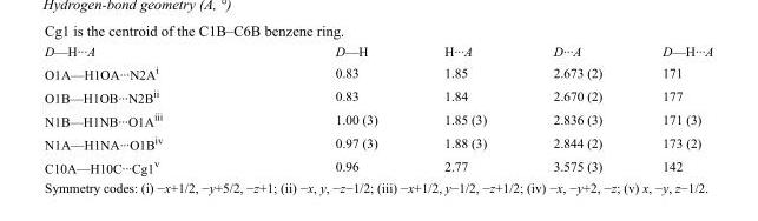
<table><tbody><tr><td>D—H···A</td><td>D—H</td><td>H···A</td><td>D···A</td><td>D—H···A</td></tr><tr><td>O1A—H1OA···N2A<sup>i</sup></td><td>0.83</td><td>1.85</td><td>2.673 (2)</td><td>171</td></tr><tr><td>O1B—H1OB···N2B<sup>ii</sup></td><td>0.83</td><td>1.84</td><td>2.670 (2)</td><td>177</td></tr><tr><td>N1B—H1NB···O1A<sup>iii</sup></td><td>1.00 (3)</td><td>1.85 (3)</td><td>2.836 (3)</td><td>171 (3)</td></tr><tr><td>N1A—H1NA···O1B<sup>iv</sup></td><td>0.97 (3)</td><td>1.88 (3)</td><td>2.844 (2)</td><td>173 (2)</td></tr><tr><td>C10A—H10C···Cg1<sup>v</sup></td><td>0.96</td><td>2.77</td><td>3.575 (3)</td><td>142</td></tr></tbody></table>